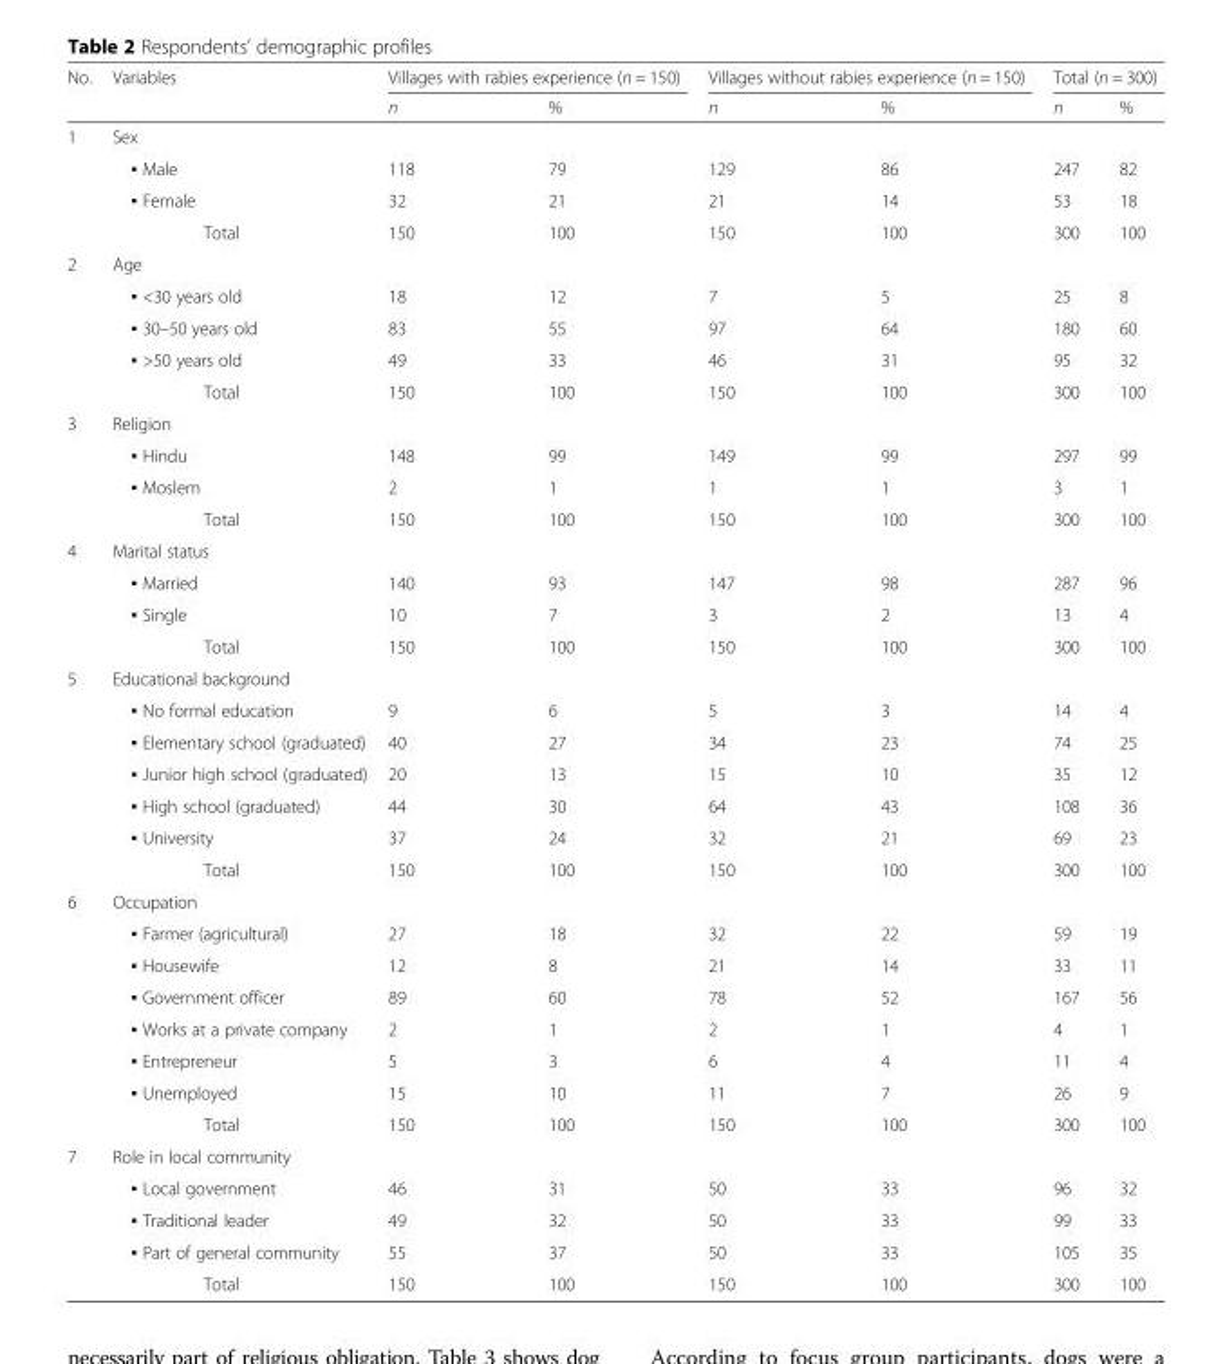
<table><thead><tr><td rowspan="2">No.</td><td rowspan="2">Variables</td><td colspan="2">Villages with rabies experience (n = 150)</td><td colspan="2">Villages without rabies experience (n = 150)</td><td colspan="2">Total (n = 300)</td></tr><tr><td>n</td><td>%</td><td>n</td><td>%</td><td>n</td><td>%</td></tr></thead><tbody><tr><td rowspan="4">1</td><td>Sex</td><td></td><td></td><td></td><td></td><td></td><td></td></tr><tr><td>▪ Male</td><td>118</td><td>79</td><td>129</td><td>86</td><td>247</td><td>82</td></tr><tr><td>▪ Female</td><td>32</td><td>21</td><td>21</td><td>14</td><td>53</td><td>18</td></tr><tr><td>Total</td><td>150</td><td>100</td><td>150</td><td>100</td><td>300</td><td>100</td></tr><tr><td rowspan="5">2</td><td>Age</td><td></td><td></td><td></td><td></td><td></td><td></td></tr><tr><td>▪ &lt;30 years old</td><td>18</td><td>12</td><td>7</td><td>5</td><td>25</td><td>8</td></tr><tr><td>▪ 30–50 years old</td><td>83</td><td>55</td><td>97</td><td>64</td><td>180</td><td>60</td></tr><tr><td>▪ &gt;50 years old</td><td>49</td><td>33</td><td>46</td><td>31</td><td>95</td><td>32</td></tr><tr><td>Total</td><td>150</td><td>100</td><td>150</td><td>100</td><td>300</td><td>100</td></tr><tr><td rowspan="4">3</td><td>Religion</td><td></td><td></td><td></td><td></td><td></td><td></td></tr><tr><td>▪ Hindu</td><td>148</td><td>99</td><td>149</td><td>99</td><td>297</td><td>99</td></tr><tr><td>▪ Moslem</td><td>2</td><td>1</td><td>1</td><td>1</td><td>3</td><td>1</td></tr><tr><td>Total</td><td>150</td><td>100</td><td>150</td><td>100</td><td>300</td><td>100</td></tr><tr><td rowspan="4">4</td><td>Marital status</td><td></td><td></td><td></td><td></td><td></td><td></td></tr><tr><td>▪ Married</td><td>140</td><td>93</td><td>147</td><td>98</td><td>287</td><td>96</td></tr><tr><td>▪ Single</td><td>10</td><td>7</td><td>3</td><td>2</td><td>13</td><td>4</td></tr><tr><td>Total</td><td>150</td><td>100</td><td>150</td><td>100</td><td>300</td><td>100</td></tr><tr><td rowspan="7">5</td><td>Educational background</td><td></td><td></td><td></td><td></td><td></td><td></td></tr><tr><td>▪ No formal education</td><td>9</td><td>6</td><td>5</td><td>3</td><td>14</td><td>4</td></tr><tr><td>▪ Elementary school (graduated)</td><td>40</td><td>27</td><td>34</td><td>23</td><td>74</td><td>25</td></tr><tr><td>▪ Junior high school (graduated)</td><td>20</td><td>13</td><td>15</td><td>10</td><td>35</td><td>12</td></tr><tr><td>▪ High school (graduated)</td><td>44</td><td>30</td><td>64</td><td>43</td><td>108</td><td>36</td></tr><tr><td>▪ University</td><td>37</td><td>24</td><td>32</td><td>21</td><td>69</td><td>23</td></tr><tr><td>Total</td><td>150</td><td>100</td><td>150</td><td>100</td><td>300</td><td>100</td></tr><tr><td rowspan="8">6</td><td>Occupation</td><td></td><td></td><td></td><td></td><td></td><td></td></tr><tr><td>▪ Farmer (agricultural)</td><td>27</td><td>18</td><td>32</td><td>22</td><td>59</td><td>19</td></tr><tr><td>▪ Housewife</td><td>12</td><td>8</td><td>21</td><td>14</td><td>33</td><td>11</td></tr><tr><td>▪ Government officer</td><td>89</td><td>60</td><td>78</td><td>52</td><td>167</td><td>56</td></tr><tr><td>▪ Works at a private company</td><td>2</td><td>1</td><td>2</td><td>1</td><td>4</td><td>1</td></tr><tr><td>▪ Entrepreneur</td><td>5</td><td>3</td><td>6</td><td>4</td><td>11</td><td>4</td></tr><tr><td>▪ Unemployed</td><td>15</td><td>10</td><td>11</td><td>7</td><td>26</td><td>9</td></tr><tr><td>Total</td><td>150</td><td>100</td><td>150</td><td>100</td><td>300</td><td>100</td></tr><tr><td rowspan="5">7</td><td>Role in local community</td><td></td><td></td><td></td><td></td><td></td><td></td></tr><tr><td>▪ Local government</td><td>46</td><td>31</td><td>50</td><td>33</td><td>96</td><td>32</td></tr><tr><td>▪ Traditional leader</td><td>49</td><td>32</td><td>50</td><td>33</td><td>99</td><td>33</td></tr><tr><td>▪ Part of general community</td><td>55</td><td>37</td><td>50</td><td>33</td><td>105</td><td>35</td></tr><tr><td>Total</td><td>150</td><td>100</td><td>150</td><td>100</td><td>300</td><td>100</td></tr></tbody></table>